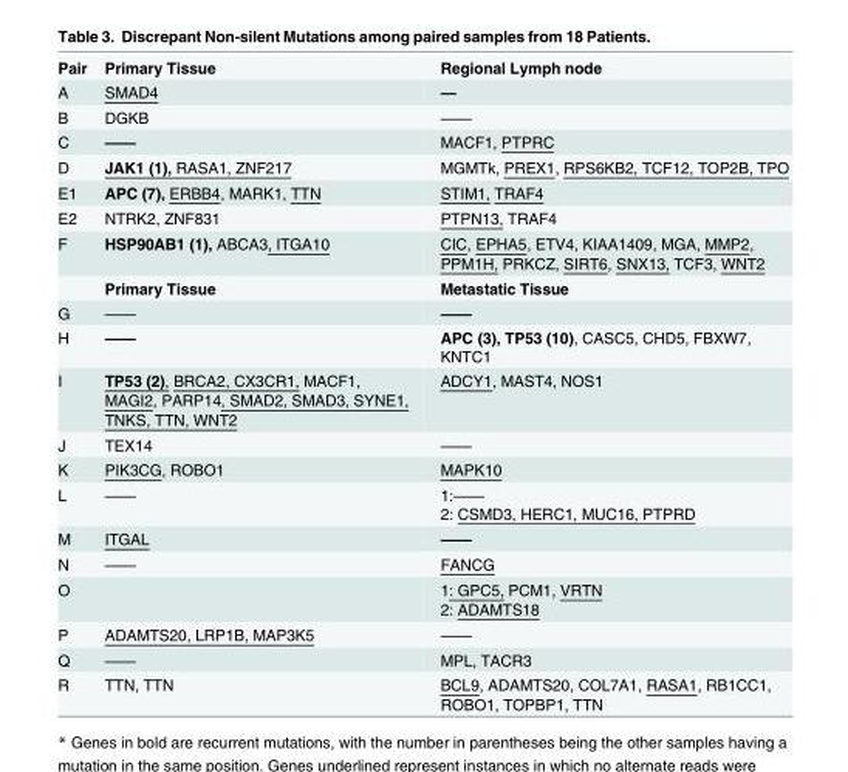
<table><tbody><tr><td>Pair</td><td>Primary Tissue</td><td>Regional Lymph node</td></tr><tr><td>A</td><td>SMAD4</td><td>—</td></tr><tr><td>B</td><td>DGKB</td><td>——</td></tr><tr><td>C</td><td>——</td><td>MACF1, PTPRC</td></tr><tr><td>D</td><td>JAK1 (1), RASA1, ZNF217</td><td>MGMTk, PREX1, RPS6KB2, TCF12, TOP2B, TPO</td></tr><tr><td>E1</td><td>APC (7), ERBB4, MARK1, TTN</td><td>STIM1, TRAF4</td></tr><tr><td>E2</td><td>NTRK2, ZNF831</td><td>PTPN13, TRAF4</td></tr><tr><td rowspan="2">F</td><td>HSP90AB1 (1), ABCA3, ITGA10</td><td>CIC, EPHA5, ETV4, KIAA1409, MGA, MMP2, PPM1H, PRKCZ, SIRT6, SNX13, TCF3, WNT2</td></tr><tr><td>Primary Tissue</td><td>Metastatic Tissue</td></tr><tr><td>G</td><td>——</td><td>——</td></tr><tr><td>H</td><td>——</td><td>APC (3), TP53 (10), CASC5, CHD5, FBXW7, KNTC1</td></tr><tr><td>I</td><td>TP53 (2), BRCA2, CX3CR1, MACF1, MAGI2, PARP14, SMAD2, SMAD3, SYNE1, TNKS, TTN, WNT2</td><td>ADCY1, MAST4, NOS1</td></tr><tr><td>J</td><td>TEX14</td><td>——</td></tr><tr><td>K</td><td>PIK3CG, ROBO1</td><td>MAPK10</td></tr><tr><td>L</td><td>——</td><td>1:—— 2: CSMD3, HERC1, MUC16, PTPRD</td></tr><tr><td>M</td><td>ITGAL</td><td>——</td></tr><tr><td>N</td><td>——</td><td>FANCG</td></tr><tr><td>O</td><td></td><td>1: GPC5, PCM1, VRTN 2: ADAMTS18</td></tr><tr><td>P</td><td>ADAMTS20, LRP1B, MAP3K5</td><td>——</td></tr><tr><td>Q</td><td>——</td><td>MPL, TACR3</td></tr><tr><td>R</td><td>TTN, TTN</td><td>BCL9, ADAMTS20, COL7A1, RASA1, RB1CC1, ROBO1, TOPBP1, TTN</td></tr></tbody></table>